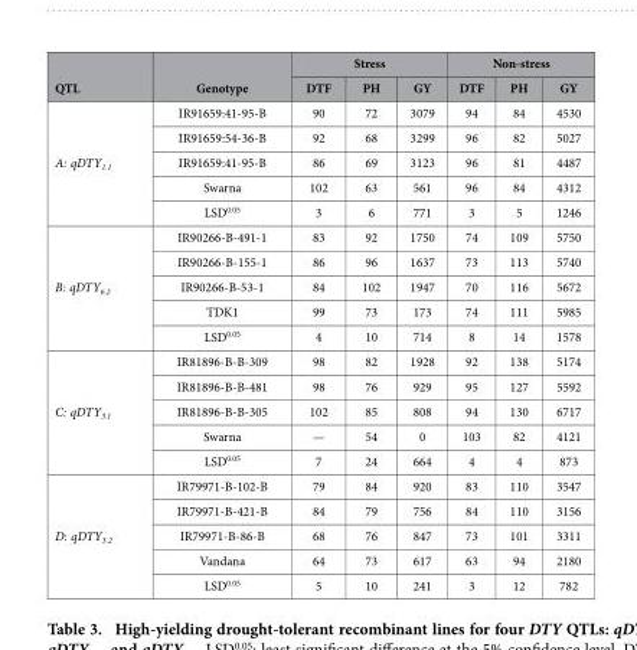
<table><thead><tr><td rowspan="2">QTL</td><td rowspan="2">Genotype</td><td colspan="3">Stress</td><td colspan="3">Non-stress</td></tr><tr><td>DTF</td><td>PH</td><td>GY</td><td>DTF</td><td>PH</td><td>GY</td></tr></thead><tbody><tr><td rowspan="5">A: qDTY<sub>1.1</sub></td><td>IR91659:41-95-B</td><td>90</td><td>72</td><td>3079</td><td>94</td><td>84</td><td>4530</td></tr><tr><td>IR91659:54-36-B</td><td>92</td><td>68</td><td>3299</td><td>96</td><td>82</td><td>5027</td></tr><tr><td>IR91659:41-95-B</td><td>86</td><td>69</td><td>3123</td><td>96</td><td>81</td><td>4487</td></tr><tr><td>Swarna</td><td>102</td><td>63</td><td>561</td><td>96</td><td>84</td><td>4312</td></tr><tr><td>LSD<sup>0.05</sup></td><td>3</td><td>6</td><td>771</td><td>3</td><td>5</td><td>1246</td></tr><tr><td rowspan="5">B: qDTY<sub>6.2</sub></td><td>IR90266-B-491-1</td><td>83</td><td>92</td><td>1750</td><td>74</td><td>109</td><td>5750</td></tr><tr><td>IR90266-B-155-1</td><td>86</td><td>96</td><td>1637</td><td>73</td><td>113</td><td>5740</td></tr><tr><td>IR90266-B-53-1</td><td>84</td><td>102</td><td>1947</td><td>70</td><td>116</td><td>5672</td></tr><tr><td>TDK1</td><td>99</td><td>73</td><td>173</td><td>74</td><td>111</td><td>5985</td></tr><tr><td>LSD<sup>0.05</sup></td><td>4</td><td>10</td><td>714</td><td>8</td><td>14</td><td>1578</td></tr><tr><td rowspan="5">C: qDTY<sub>3.1</sub></td><td>IR81896-B-B-309</td><td>98</td><td>82</td><td>1928</td><td>92</td><td>138</td><td>5174</td></tr><tr><td>IR81896-B-B-481</td><td>98</td><td>76</td><td>929</td><td>95</td><td>127</td><td>5592</td></tr><tr><td>IR81896-B-B-305</td><td>102</td><td>85</td><td>808</td><td>94</td><td>130</td><td>6717</td></tr><tr><td>Swarna</td><td>—</td><td>54</td><td>0</td><td>103</td><td>82</td><td>4121</td></tr><tr><td>LSD<sup>0.05</sup></td><td>7</td><td>24</td><td>664</td><td>4</td><td>4</td><td>873</td></tr><tr><td rowspan="5">D: qDTY<sub>3.2</sub></td><td>IR79971-B-102-B</td><td>79</td><td>84</td><td>920</td><td>83</td><td>110</td><td>3547</td></tr><tr><td>IR79971-B-421-B</td><td>84</td><td>79</td><td>756</td><td>84</td><td>110</td><td>3156</td></tr><tr><td>IR79971-B-86-B</td><td>68</td><td>76</td><td>847</td><td>73</td><td>101</td><td>3311</td></tr><tr><td>Vandana</td><td>64</td><td>73</td><td>617</td><td>63</td><td>94</td><td>2180</td></tr><tr><td>LSD<sup>0.05</sup></td><td>5</td><td>10</td><td>241</td><td>3</td><td>12</td><td>782</td></tr></tbody></table>